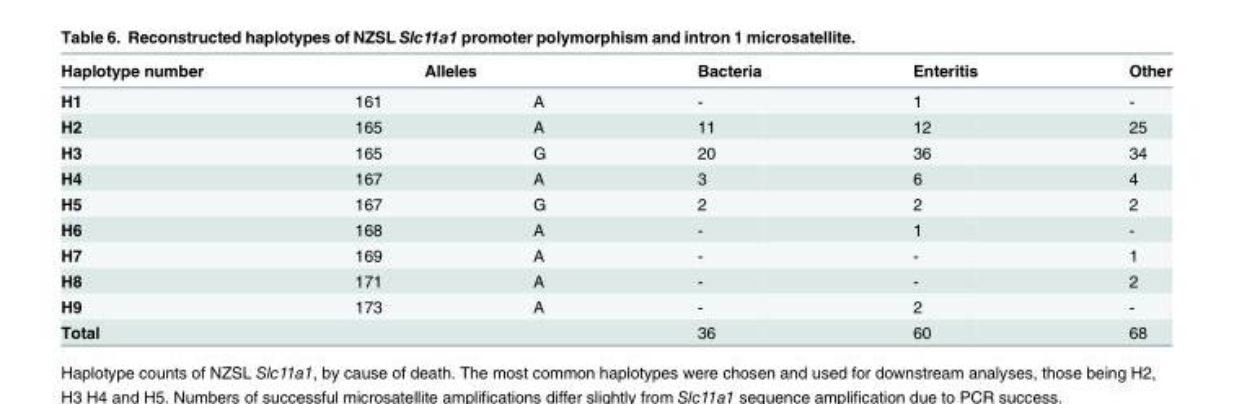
<table><thead><tr><td rowspan="2">Haplotype number H1</td><td colspan="2">Alleles</td><td rowspan="2">Bacteria -</td><td rowspan="2">Enteritis 1</td><td rowspan="2">Other -</td></tr><tr><td>161</td><td>A</td></tr></thead><tbody><tr><td>H2</td><td>165</td><td>A</td><td>11</td><td>12</td><td>25</td></tr><tr><td>H3</td><td>165</td><td>G</td><td>20</td><td>36</td><td>34</td></tr><tr><td>H4</td><td>167</td><td>A</td><td>3</td><td>6</td><td>4</td></tr><tr><td>H5</td><td>167</td><td>G</td><td>2</td><td>2</td><td>2</td></tr><tr><td>H6</td><td>168</td><td>A</td><td>-</td><td>1</td><td>-</td></tr><tr><td>H7</td><td>169</td><td>A</td><td>-</td><td>-</td><td>1</td></tr><tr><td>H8</td><td>171</td><td>A</td><td>-</td><td>-</td><td>2</td></tr><tr><td>H9</td><td>173</td><td>A</td><td>-</td><td>2</td><td>-</td></tr><tr><td>Total</td><td></td><td></td><td>36</td><td>60</td><td>68</td></tr></tbody></table>